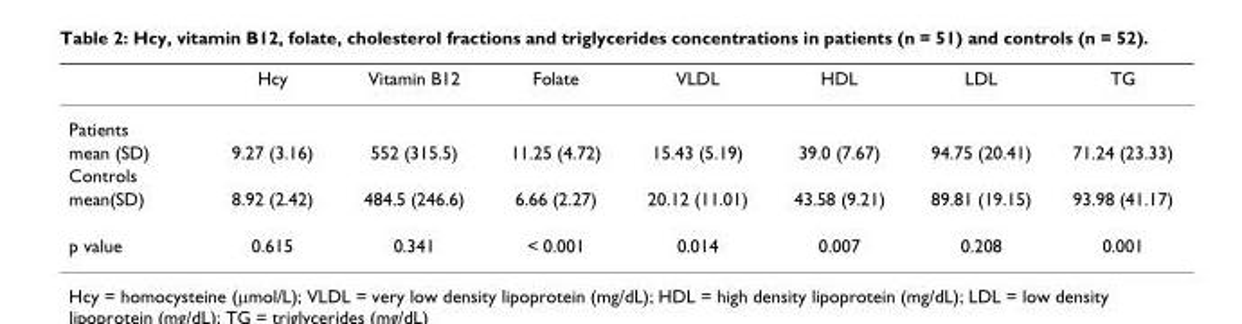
<table><thead><tr><td></td><td>Hcy</td><td>Vitamin B12</td><td>Folate</td><td>VLDL</td><td>HDL</td><td>LDL</td><td>TG</td></tr></thead><tbody><tr><td colspan="8">Patients</td></tr><tr><td>mean (SD)</td><td>9.27 (3.16)</td><td>552 (315.5)</td><td>11.25 (4.72)</td><td>15.43 (5.19)</td><td>39.0 (7.67)</td><td>94.75 (20.41)</td><td>71.24 (23.33)</td></tr><tr><td colspan="8">Controls</td></tr><tr><td>mean(SD)</td><td>8.92 (2.42)</td><td>484.5 (246.6)</td><td>6.66 (2.27)</td><td>20.12 (11.01)</td><td>43.58 (9.21)</td><td>89.81 (19.15)</td><td>93.98 (41.17)</td></tr><tr><td>p value</td><td>0.615</td><td>0.341</td><td>&lt; 0.001</td><td>0.014</td><td>0.007</td><td>0.208</td><td>0.001</td></tr></tbody></table>